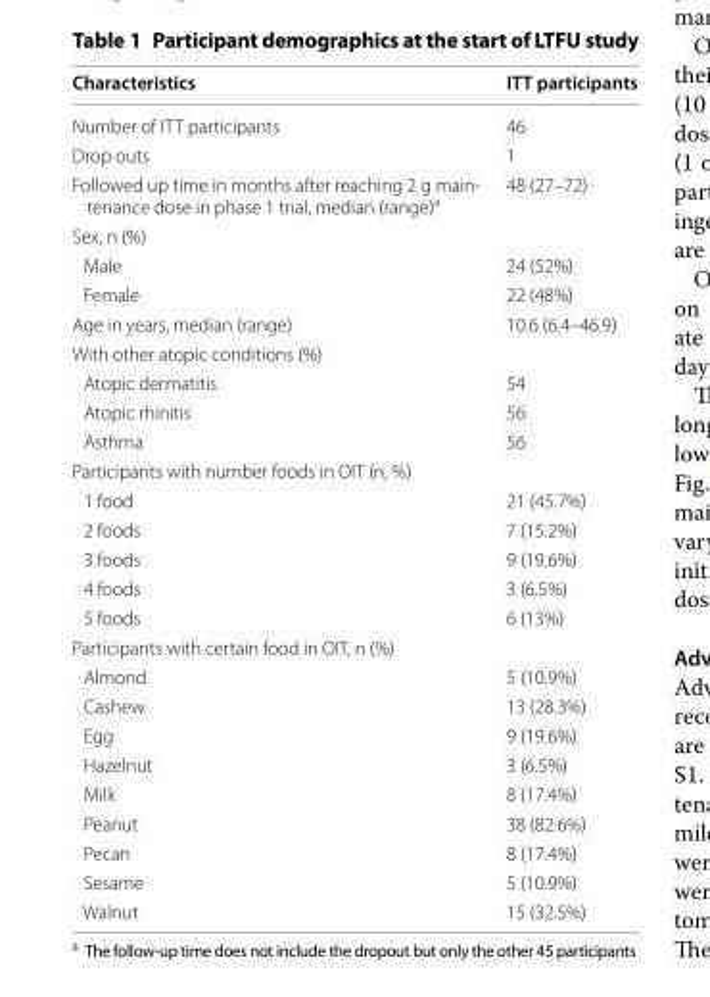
<table><thead><tr><td>Characteristics</td><td>ITT participants</td></tr></thead><tbody><tr><td>Number of ITT participants</td><td>46</td></tr><tr><td>Drop outs</td><td>1</td></tr><tr><td>Followed up time in months after reaching 2 g main- tenance dose in phase 1 trial, median (range)a</td><td>48 (27–72)</td></tr><tr><td colspan="2">Sex, n (%)</td></tr><tr><td>Male</td><td>24 (52%)</td></tr><tr><td>Female</td><td>22 (48%)</td></tr><tr><td>Age in years, median (range)</td><td>10.6 (6.4–46.9)</td></tr><tr><td colspan="2">With other atopic conditions (%)</td></tr><tr><td>Atopic dermatitis</td><td>54</td></tr><tr><td>Atopic rhinitis</td><td>56</td></tr><tr><td>Asthma</td><td>56</td></tr><tr><td colspan="2">Participants with number foods in OIT (n, %)</td></tr><tr><td>1 food</td><td>21 (45.7%)</td></tr><tr><td>2 foods</td><td>7 (15.2%)</td></tr><tr><td>3 foods</td><td>9 (19.6%)</td></tr><tr><td>4 foods</td><td>3 (6.5%)</td></tr><tr><td>5 foods</td><td>6 (13%)</td></tr><tr><td colspan="2">Participants with certain food in OIT, n (%)</td></tr><tr><td>Almond</td><td>5 (10.9%)</td></tr><tr><td>Cashew</td><td>13 (28.3%)</td></tr><tr><td>Egg</td><td>9 (19.6%)</td></tr><tr><td>Hazelnut</td><td>3 (6.5%)</td></tr><tr><td>Milk</td><td>8 (17.4%)</td></tr><tr><td>Peanut</td><td>38 (82.6%)</td></tr><tr><td>Pecan</td><td>8 (17.4%)</td></tr><tr><td>Sesame</td><td>5 (10.9%)</td></tr><tr><td>Walnut</td><td>15 (32.5%)</td></tr></tbody></table>